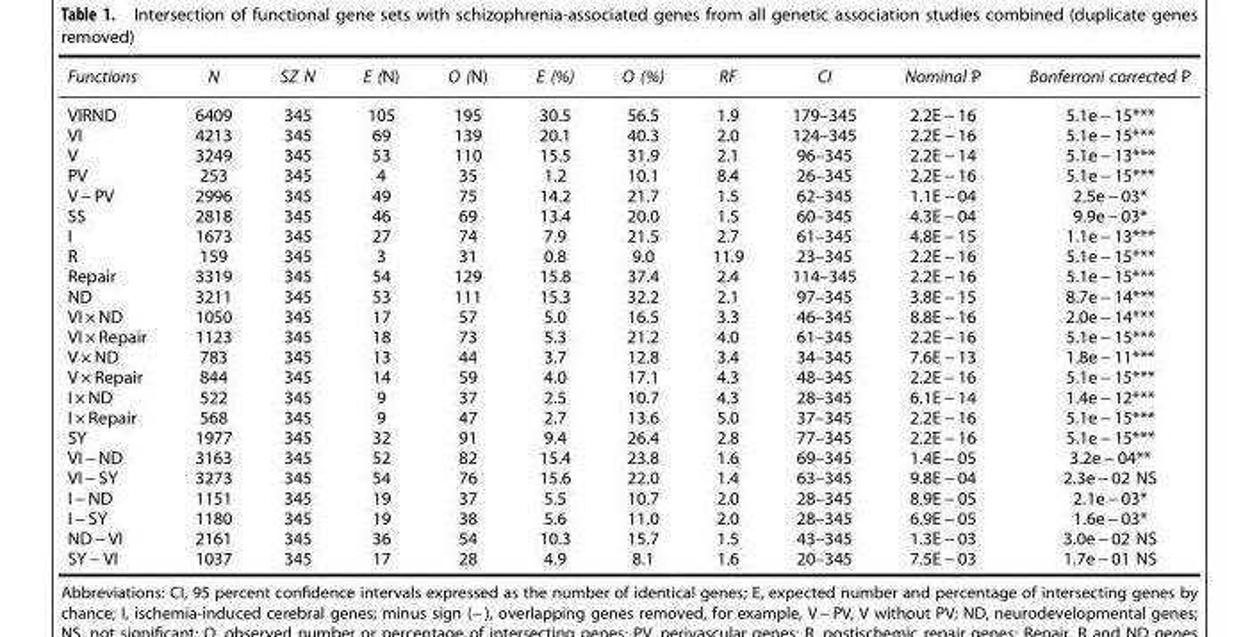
<table><thead><tr><td>Functions</td><td>N</td><td>SZ N</td><td>E (N)</td><td>O (N)</td><td>E (%)</td><td>O (%)</td><td>RF</td><td>CI</td><td>Nominal P</td><td>Bonferroni corrected P</td></tr></thead><tbody><tr><td>VIRND</td><td>6409</td><td>345</td><td>105</td><td>195</td><td>30.5</td><td>56.5</td><td>1.9</td><td>179–345</td><td>2.2E − 16</td><td>5.1e − 15***</td></tr><tr><td>VI</td><td>4213</td><td>345</td><td>69</td><td>139</td><td>20.1</td><td>40.3</td><td>2.0</td><td>124–345</td><td>2.2E − 16</td><td>5.1e − 15***</td></tr><tr><td>V</td><td>3249</td><td>345</td><td>53</td><td>110</td><td>15.5</td><td>31.9</td><td>2.1</td><td>96–345</td><td>2.2E − 14</td><td>5.1e − 13***</td></tr><tr><td>PV</td><td>253</td><td>345</td><td>4</td><td>35</td><td>1.2</td><td>10.1</td><td>8.4</td><td>26–345</td><td>2.2E − 16</td><td>5.1e − 15***</td></tr><tr><td>V − PV</td><td>2996</td><td>345</td><td>49</td><td>75</td><td>14.2</td><td>21.7</td><td>1.5</td><td>62–345</td><td>1.1E − 04</td><td>2.5e − 03*</td></tr><tr><td>SS</td><td>2818</td><td>345</td><td>46</td><td>69</td><td>13.4</td><td>20.0</td><td>1.5</td><td>60–345</td><td>4.3E − 04</td><td>9.9e − 03*</td></tr><tr><td>I</td><td>1673</td><td>345</td><td>27</td><td>74</td><td>7.9</td><td>21.5</td><td>2.7</td><td>61–345</td><td>4.8E − 15</td><td>1.1e − 13***</td></tr><tr><td>R</td><td>159</td><td>345</td><td>3</td><td>31</td><td>0.8</td><td>9.0</td><td>11.9</td><td>23–345</td><td>2.2E − 16</td><td>5.1e − 15***</td></tr><tr><td>Repair</td><td>3319</td><td>345</td><td>54</td><td>129</td><td>15.8</td><td>37.4</td><td>2.4</td><td>114–345</td><td>2.2E − 16</td><td>5.1e − 15***</td></tr><tr><td>ND</td><td>3211</td><td>345</td><td>53</td><td>111</td><td>15.3</td><td>32.2</td><td>2.1</td><td>97–345</td><td>3.8E − 15</td><td>8.7e − 14***</td></tr><tr><td>VI × ND</td><td>1050</td><td>345</td><td>17</td><td>57</td><td>5.0</td><td>16.5</td><td>3.3</td><td>46–345</td><td>8.8E − 16</td><td>2.0e − 14***</td></tr><tr><td>VI × Repair</td><td>1123</td><td>345</td><td>18</td><td>73</td><td>5.3</td><td>21.2</td><td>4.0</td><td>61–345</td><td>2.2E − 16</td><td>5.1e − 15***</td></tr><tr><td>V × ND</td><td>783</td><td>345</td><td>13</td><td>44</td><td>3.7</td><td>12.8</td><td>3.4</td><td>34–345</td><td>7.6E − 13</td><td>1.8e − 11***</td></tr><tr><td>V × Repair</td><td>844</td><td>345</td><td>14</td><td>59</td><td>4.0</td><td>17.1</td><td>4.3</td><td>48–345</td><td>2.2E − 16</td><td>5.1e − 15***</td></tr><tr><td>I × ND</td><td>522</td><td>345</td><td>9</td><td>37</td><td>2.5</td><td>10.7</td><td>4.3</td><td>28–345</td><td>6.1E − 14</td><td>1.4e − 12***</td></tr><tr><td>I × Repair</td><td>568</td><td>345</td><td>9</td><td>47</td><td>2.7</td><td>13.6</td><td>5.0</td><td>37–345</td><td>2.2E − 16</td><td>5.1e − 15***</td></tr><tr><td>SY</td><td>1977</td><td>345</td><td>32</td><td>91</td><td>9.4</td><td>26.4</td><td>2.8</td><td>77–345</td><td>2.2E − 16</td><td>5.1e − 15***</td></tr><tr><td>VI − ND</td><td>3163</td><td>345</td><td>52</td><td>82</td><td>15.4</td><td>23.8</td><td>1.6</td><td>69–345</td><td>1.4E − 05</td><td>3.2e − 04**</td></tr><tr><td>VI − SY</td><td>3273</td><td>345</td><td>54</td><td>76</td><td>15.6</td><td>22.0</td><td>1.4</td><td>63–345</td><td>9.8E − 04</td><td>2.3e − 02 NS</td></tr><tr><td>I − ND</td><td>1151</td><td>345</td><td>19</td><td>37</td><td>5.5</td><td>10.7</td><td>2.0</td><td>28–345</td><td>8.9E − 05</td><td>2.1e − 03*</td></tr><tr><td>I − SY</td><td>1180</td><td>345</td><td>19</td><td>38</td><td>5.6</td><td>11.0</td><td>2.0</td><td>28–345</td><td>6.9E − 05</td><td>1.6e − 03*</td></tr><tr><td>ND − VI</td><td>2161</td><td>345</td><td>36</td><td>54</td><td>10.3</td><td>15.7</td><td>1.5</td><td>43–345</td><td>1.3E − 03</td><td>3.0e − 02 NS</td></tr><tr><td>SY − VI</td><td>1037</td><td>345</td><td>17</td><td>28</td><td>4.9</td><td>8.1</td><td>1.6</td><td>20–345</td><td>7.5E − 03</td><td>1.7e − 01 NS</td></tr></tbody></table>